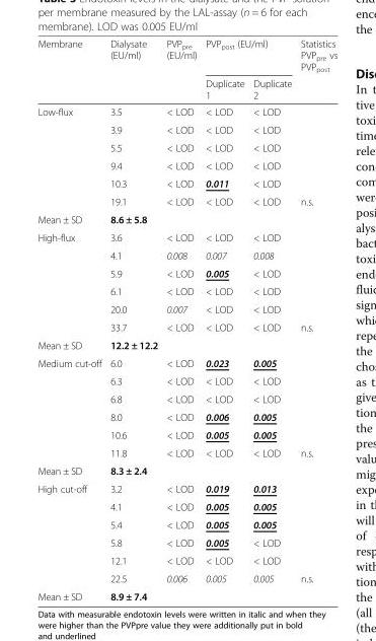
<table><thead><tr><td rowspan="2">Membrane</td><td rowspan="2">Dialysate (EU/ml)</td><td rowspan="2">PVP<sub>pre</sub> (EU/ml)</td><td colspan="2">PVP<sub>post</sub> (EU/ml)</td><td rowspan="2">Statistics PVP<sub>pre</sub> vs PVP<sub>post</sub></td></tr><tr><td>Duplicate 1</td><td>Duplicate 2</td></tr></thead><tbody><tr><td rowspan="6">Low-flux</td><td>3.5</td><td>&lt; LOD</td><td>&lt; LOD</td><td>&lt; LOD</td><td></td></tr><tr><td>3.9</td><td>&lt; LOD</td><td>&lt; LOD</td><td>&lt; LOD</td><td></td></tr><tr><td>5.5</td><td>&lt; LOD</td><td>&lt; LOD</td><td>&lt; LOD</td><td></td></tr><tr><td>9.4</td><td>&lt; LOD</td><td>&lt; LOD</td><td>&lt; LOD</td><td></td></tr><tr><td>10.3</td><td>&lt; LOD</td><td>0.011</td><td>&lt; LOD</td><td></td></tr><tr><td>19.1</td><td>&lt; LOD</td><td>&lt; LOD</td><td>&lt; LOD</td><td>n.s.</td></tr><tr><td>Mean ± SD</td><td>8.6 ± 5.8</td><td></td><td></td><td></td><td></td></tr><tr><td rowspan="6">High-flux</td><td>3.6</td><td>&lt; LOD</td><td>&lt; LOD</td><td>&lt; LOD</td><td></td></tr><tr><td>4.1</td><td>0.008</td><td>0.007</td><td>0.008</td><td></td></tr><tr><td>5.9</td><td>&lt; LOD</td><td>0.005</td><td>&lt; LOD</td><td></td></tr><tr><td>6.1</td><td>&lt; LOD</td><td>&lt; LOD</td><td>&lt; LOD</td><td></td></tr><tr><td>20.0</td><td>0.007</td><td>&lt; LOD</td><td>&lt; LOD</td><td></td></tr><tr><td>33.7</td><td>&lt; LOD</td><td>&lt; LOD</td><td>&lt; LOD</td><td>n.s.</td></tr><tr><td>Mean ± SD</td><td>12.2 ± 12.2</td><td></td><td></td><td></td><td></td></tr><tr><td rowspan="6">Medium cut-off</td><td>6.0</td><td>&lt; LOD</td><td>0.023</td><td>0.005</td><td></td></tr><tr><td>6.3</td><td>&lt; LOD</td><td>&lt; LOD</td><td>&lt; LOD</td><td></td></tr><tr><td>6.8</td><td>&lt; LOD</td><td>&lt; LOD</td><td>&lt; LOD</td><td></td></tr><tr><td>8.0</td><td>&lt; LOD</td><td>0.006</td><td>0.005</td><td></td></tr><tr><td>10.6</td><td>&lt; LOD</td><td>0.005</td><td>0.005</td><td></td></tr><tr><td>11.8</td><td>&lt; LOD</td><td>&lt; LOD</td><td>&lt; LOD</td><td>n.s.</td></tr><tr><td>Mean ± SD</td><td>8.3 ± 2.4</td><td></td><td></td><td></td><td></td></tr><tr><td rowspan="6">High cut-off</td><td>3.2</td><td>&lt; LOD</td><td>0.019</td><td>0.013</td><td></td></tr><tr><td>4.1</td><td>&lt; LOD</td><td>0.005</td><td>0.005</td><td></td></tr><tr><td>5.4</td><td>&lt; LOD</td><td>0.005</td><td>0.005</td><td></td></tr><tr><td>5.8</td><td>&lt; LOD</td><td>0.005</td><td>&lt; LOD</td><td></td></tr><tr><td>12.1</td><td>&lt; LOD</td><td>&lt; LOD</td><td>&lt; LOD</td><td></td></tr><tr><td>22.5</td><td>0.006</td><td>0.005</td><td>0.005</td><td>n.s.</td></tr><tr><td>Mean ± SD</td><td>8.9 ± 7.4</td><td></td><td></td><td></td><td></td></tr></tbody></table>